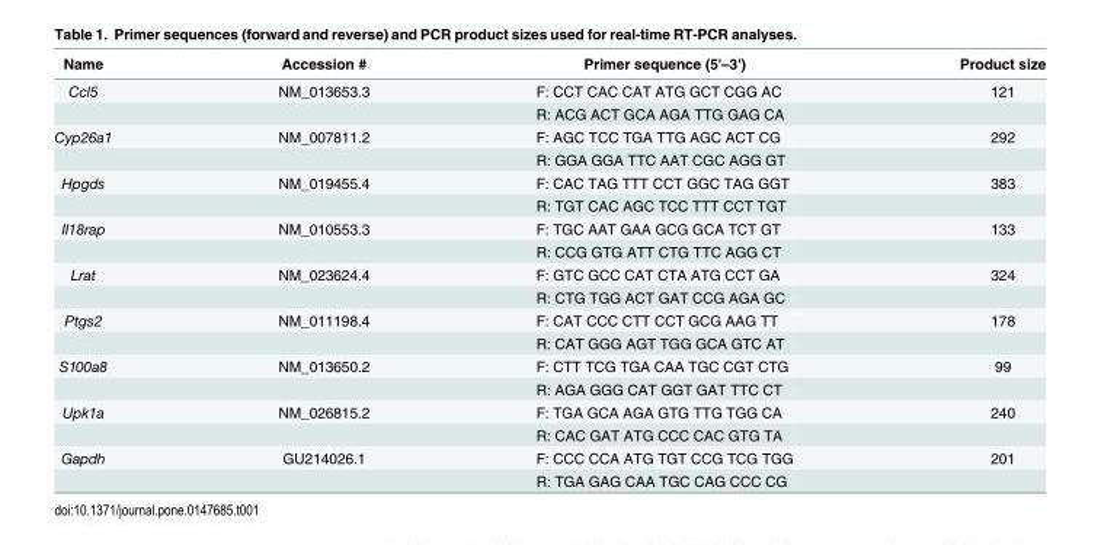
<table><thead><tr><td>Name</td><td>Accession #</td><td>Primer sequence (5&#x27;–3&#x27;)</td><td>Product size</td></tr></thead><tbody><tr><td rowspan="2">Ccl5</td><td>NM_013653.3</td><td>F: CCT CAC CAT ATG GCT CGG AC</td><td>121</td></tr><tr><td></td><td>R: ACG ACT GCA AGA TTG GAG CA</td><td></td></tr><tr><td rowspan="2">Cyp26a1</td><td>NM_007811.2</td><td>F: AGC TCC TGA TTG AGC ACT CG</td><td>292</td></tr><tr><td></td><td>R: GGA GGA TTC AAT CGC AGG GT</td><td></td></tr><tr><td rowspan="2">Hpgds</td><td>NM_019455.4</td><td>F: CAC TAG TTT CCT GGC TAG GGT</td><td>383</td></tr><tr><td></td><td>R: TGT CAC AGC TCC TTT CCT TGT</td><td></td></tr><tr><td rowspan="2">Il18rap</td><td>NM_010553.3</td><td>F: TGC AAT GAA GCG GCA TCT GT</td><td>133</td></tr><tr><td></td><td>R: CCG GTG ATT CTG TTC AGG CT</td><td></td></tr><tr><td rowspan="2">Lrat</td><td>NM_023624.4</td><td>F: GTC GCC CAT CTA ATG CCT GA</td><td>324</td></tr><tr><td></td><td>R: CTG TGG ACT GAT CCG AGA GC</td><td></td></tr><tr><td rowspan="2">Ptgs2</td><td>NM_011198.4</td><td>F: CAT CCC CTT CCT GCG AAG TT</td><td>178</td></tr><tr><td></td><td>R: CAT GGG AGT TGG GCA GTC AT</td><td></td></tr><tr><td rowspan="2">S100a8</td><td>NM_013650.2</td><td>F: CTT TCG TGA CAA TGC CGT CTG</td><td>99</td></tr><tr><td></td><td>R: AGA GGG CAT GGT GAT TTC CT</td><td></td></tr><tr><td rowspan="2">Upk1a</td><td>NM_026815.2</td><td>F: TGA GCA AGA GTG TTG TGG CA</td><td>240</td></tr><tr><td></td><td>R: CAC GAT ATG CCC CAC GTG TA</td><td></td></tr><tr><td rowspan="2">Gapdh</td><td>GU214026.1</td><td>F: CCC CCA ATG TGT CCG TCG TGG</td><td>201</td></tr><tr><td></td><td>R: TGA GAG CAA TGC CAG CCC CG</td><td></td></tr></tbody></table>